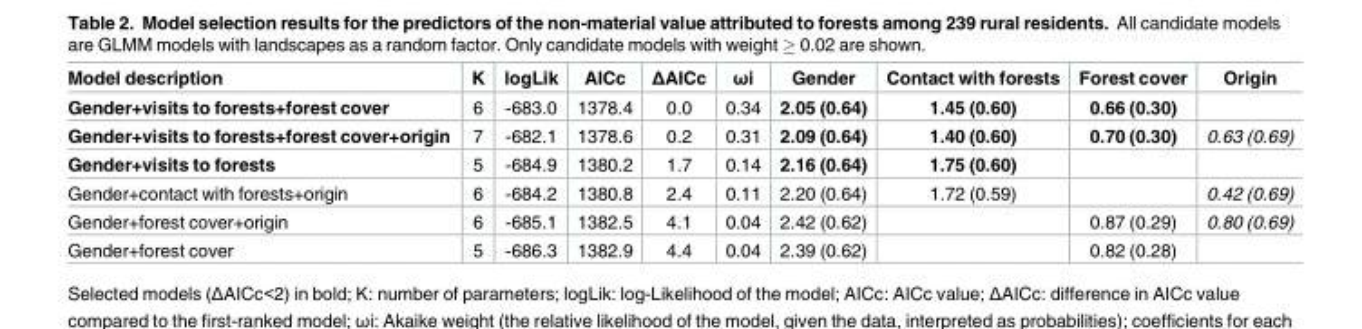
<table><thead><tr><td>Model description</td><td>K</td><td>logLik</td><td>AICc</td><td>ΔAICc</td><td>ωi</td><td>Gender</td><td>Contact with forests</td><td>Forest cover</td><td>Origin</td></tr></thead><tbody><tr><td>Gender+visits to forests+forest cover</td><td>6</td><td>-683.0</td><td>1378.4</td><td>0.0</td><td>0.34</td><td>2.05 (0.64)</td><td>1.45 (0.60)</td><td>0.66 (0.30)</td><td></td></tr><tr><td>Gender+visits to forests+forest cover+origin</td><td>7</td><td>-682.1</td><td>1378.6</td><td>0.2</td><td>0.31</td><td>2.09 (0.64)</td><td>1.40 (0.60)</td><td>0.70 (0.30)</td><td>0.63 (0.69)</td></tr><tr><td>Gender+visits to forests</td><td>5</td><td>-684.9</td><td>1380.2</td><td>1.7</td><td>0.14</td><td>2.16 (0.64)</td><td>1.75 (0.60)</td><td></td><td></td></tr><tr><td>Gender+contact with forests+origin</td><td>6</td><td>-684.2</td><td>1380.8</td><td>2.4</td><td>0.11</td><td>2.20 (0.64)</td><td>1.72 (0.59)</td><td></td><td>0.42 (0.69)</td></tr><tr><td>Gender+forest cover+origin</td><td>6</td><td>-685.1</td><td>1382.5</td><td>4.1</td><td>0.04</td><td>2.42 (0.62)</td><td></td><td>0.87 (0.29)</td><td>0.80 (0.69)</td></tr><tr><td>Gender+forest cover</td><td>5</td><td>-686.3</td><td>1382.9</td><td>4.4</td><td>0.04</td><td>2.39 (0.62)</td><td></td><td>0.82 (0.28)</td><td></td></tr></tbody></table>